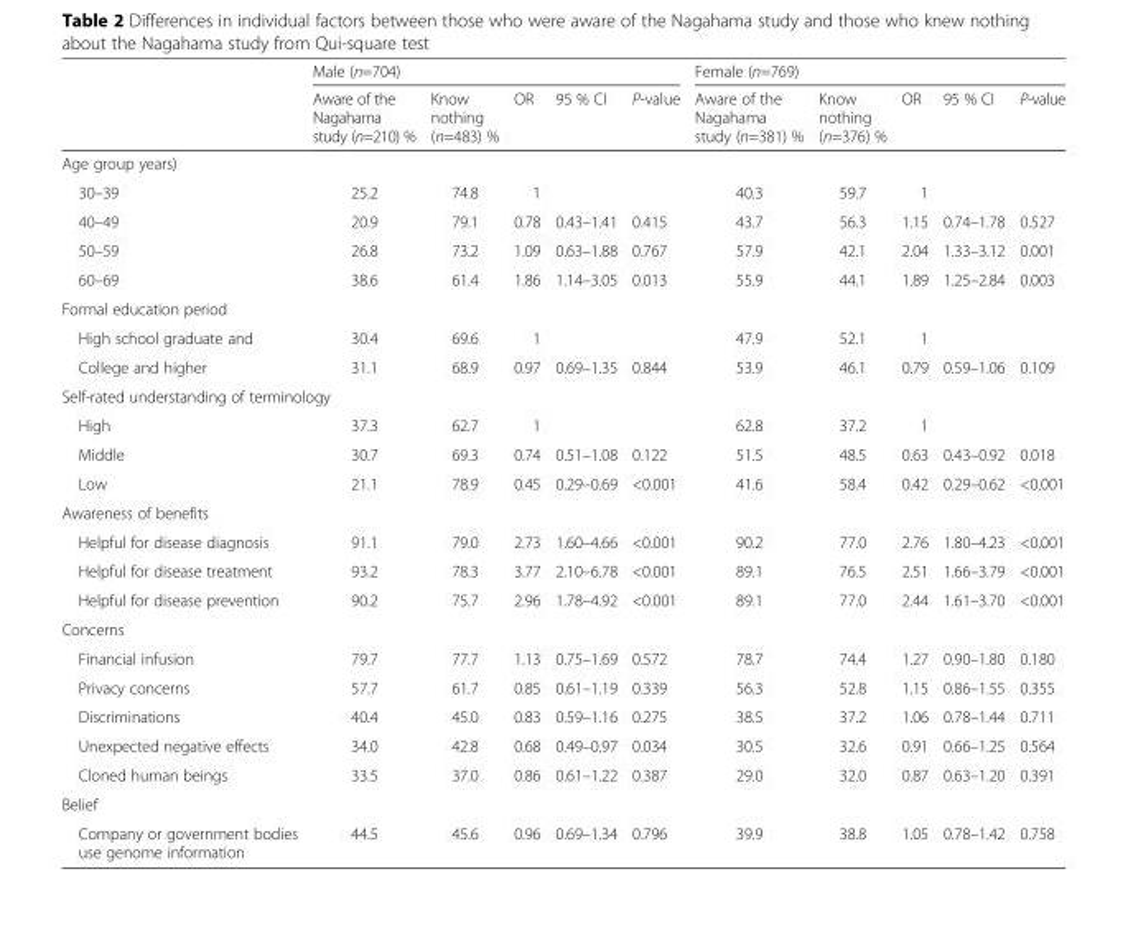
<table><thead><tr><td rowspan="2"></td><td colspan="5">Male (n=704)</td><td colspan="5">Female (n=769)</td></tr><tr><td>Aware of the Nagahama study (n=210) %</td><td>Know nothing (n=483) %</td><td>OR</td><td>95 % CI</td><td>P-value</td><td>Aware of the Nagahama study (n=381) %</td><td>Know nothing (n=376) %</td><td>OR</td><td>95 % CI</td><td>P-value</td></tr></thead><tbody><tr><td colspan="11">Age group years)</td></tr><tr><td>30–39</td><td>25.2</td><td>74.8</td><td>1</td><td></td><td></td><td>40.3</td><td>59.7</td><td>1</td><td></td><td></td></tr><tr><td>40–49</td><td>20.9</td><td>79.1</td><td>0.78</td><td>0.43–1.41</td><td>0.415</td><td>43.7</td><td>56.3</td><td>1.15</td><td>0.74–1.78</td><td>0.527</td></tr><tr><td>50–59</td><td>26.8</td><td>73.2</td><td>1.09</td><td>0.63–1.88</td><td>0.767</td><td>57.9</td><td>42.1</td><td>2.04</td><td>1.33–3.12</td><td>0.001</td></tr><tr><td>60–69</td><td>38.6</td><td>61.4</td><td>1.86</td><td>1.14–3.05</td><td>0.013</td><td>55.9</td><td>44.1</td><td>1.89</td><td>1.25–2.84</td><td>0.003</td></tr><tr><td colspan="11">Formal education period</td></tr><tr><td>High school graduate and</td><td>30.4</td><td>69.6</td><td>1</td><td></td><td></td><td>47.9</td><td>52.1</td><td>1</td><td></td><td></td></tr><tr><td>College and higher</td><td>31.1</td><td>68.9</td><td>0.97</td><td>0.69–1.35</td><td>0.844</td><td>53.9</td><td>46.1</td><td>0.79</td><td>0.59–1.06</td><td>0.109</td></tr><tr><td colspan="11">Self-rated understanding of terminology</td></tr><tr><td>High</td><td>37.3</td><td>62.7</td><td>1</td><td></td><td></td><td>62.8</td><td>37.2</td><td>1</td><td></td><td></td></tr><tr><td>Middle</td><td>30.7</td><td>69.3</td><td>0.74</td><td>0.51–1.08</td><td>0.122</td><td>51.5</td><td>48.5</td><td>0.63</td><td>0.43–0.92</td><td>0.018</td></tr><tr><td>Low</td><td>21.1</td><td>78.9</td><td>0.45</td><td>0.29–0.69</td><td>&lt;0.001</td><td>41.6</td><td>58.4</td><td>0.42</td><td>0.29–0.62</td><td>&lt;0.001</td></tr><tr><td colspan="11">Awareness of benefits</td></tr><tr><td>Helpful for disease diagnosis</td><td>91.1</td><td>79.0</td><td>2.73</td><td>1.60–4.66</td><td>&lt;0.001</td><td>90.2</td><td>77.0</td><td>2.76</td><td>1.80–4.23</td><td>&lt;0.001</td></tr><tr><td>Helpful for disease treatment</td><td>93.2</td><td>78.3</td><td>3.77</td><td>2.10–6.78</td><td>&lt;0.001</td><td>89.1</td><td>76.5</td><td>2.51</td><td>1.66–3.79</td><td>&lt;0.001</td></tr><tr><td>Helpful for disease prevention</td><td>90.2</td><td>75.7</td><td>2.96</td><td>1.78–4.92</td><td>&lt;0.001</td><td>89.1</td><td>77.0</td><td>2.44</td><td>1.61–3.70</td><td>&lt;0.001</td></tr><tr><td colspan="11">Concerns</td></tr><tr><td>Financial infusion</td><td>79.7</td><td>77.7</td><td>1.13</td><td>0.75–1.69</td><td>0.572</td><td>78.7</td><td>74.4</td><td>1.27</td><td>0.90–1.80</td><td>0.180</td></tr><tr><td>Privacy concerns</td><td>57.7</td><td>61.7</td><td>0.85</td><td>0.61–1.19</td><td>0.339</td><td>56.3</td><td>52.8</td><td>1.15</td><td>0.86–1.55</td><td>0.355</td></tr><tr><td>Discriminations</td><td>40.4</td><td>45.0</td><td>0.83</td><td>0.59–1.16</td><td>0.275</td><td>38.5</td><td>37.2</td><td>1.06</td><td>0.78–1.44</td><td>0.711</td></tr><tr><td>Unexpected negative effects</td><td>34.0</td><td>42.8</td><td>0.68</td><td>0.49–0.97</td><td>0.034</td><td>30.5</td><td>32.6</td><td>0.91</td><td>0.66–1.25</td><td>0.564</td></tr><tr><td>Cloned human beings</td><td>33.5</td><td>37.0</td><td>0.86</td><td>0.61–1.22</td><td>0.387</td><td>29.0</td><td>32.0</td><td>0.87</td><td>0.63–1.20</td><td>0.391</td></tr><tr><td colspan="11">Belief</td></tr><tr><td>Company or government bodies use genome information</td><td>44.5</td><td>45.6</td><td>0.96</td><td>0.69–1.34</td><td>0.796</td><td>39.9</td><td>38.8</td><td>1.05</td><td>0.78–1.42</td><td>0.758</td></tr></tbody></table>